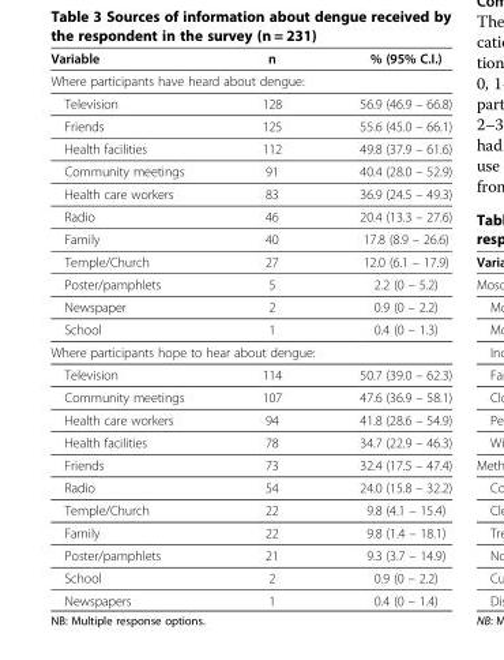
<table><thead><tr><td>Variable</td><td>n</td><td>% (95% C.I.)</td></tr></thead><tbody><tr><td colspan="3">Where participants have heard about dengue:</td></tr><tr><td>Television</td><td>128</td><td>56.9 (46.9 – 66.8)</td></tr><tr><td>Friends</td><td>125</td><td>55.6 (45.0 – 66.1)</td></tr><tr><td>Health facilities</td><td>112</td><td>49.8 (37.9 – 61.6)</td></tr><tr><td>Community meetings</td><td>91</td><td>40.4 (28.0 – 52.9)</td></tr><tr><td>Health care workers</td><td>83</td><td>36.9 (24.5 – 49.3)</td></tr><tr><td>Radio</td><td>46</td><td>20.4 (13.3 – 27.6)</td></tr><tr><td>Family</td><td>40</td><td>17.8 (8.9 – 26.6)</td></tr><tr><td>Temple/Church</td><td>27</td><td>12.0 (6.1 – 17.9)</td></tr><tr><td>Poster/pamphlets</td><td>5</td><td>2.2 (0 – 5.2)</td></tr><tr><td>Newspaper</td><td>2</td><td>0.9 (0 – 2.2)</td></tr><tr><td>School</td><td>1</td><td>0.4 (0 – 1.3)</td></tr><tr><td colspan="3">Where participants hope to hear about dengue:</td></tr><tr><td>Television</td><td>114</td><td>50.7 (39.0 – 62.3)</td></tr><tr><td>Community meetings</td><td>107</td><td>47.6 (36.9 – 58.1)</td></tr><tr><td>Health care workers</td><td>94</td><td>41.8 (28.6 – 54.9)</td></tr><tr><td>Health facilities</td><td>78</td><td>34.7 (22.9 – 46.3)</td></tr><tr><td>Friends</td><td>73</td><td>32.4 (17.5 – 47.4)</td></tr><tr><td>Radio</td><td>54</td><td>24.0 (15.8 – 32.2)</td></tr><tr><td>Temple/Church</td><td>22</td><td>9.8 (4.1 – 15.4)</td></tr><tr><td>Family</td><td>22</td><td>9.8 (1.4 – 18.1)</td></tr><tr><td>Poster/pamphlets</td><td>21</td><td>9.3 (3.7 – 14.9)</td></tr><tr><td>School</td><td>2</td><td>0.9 (0 – 2.2)</td></tr><tr><td>Newspapers</td><td>1</td><td>0.4 (0 – 1.4)</td></tr></tbody></table>